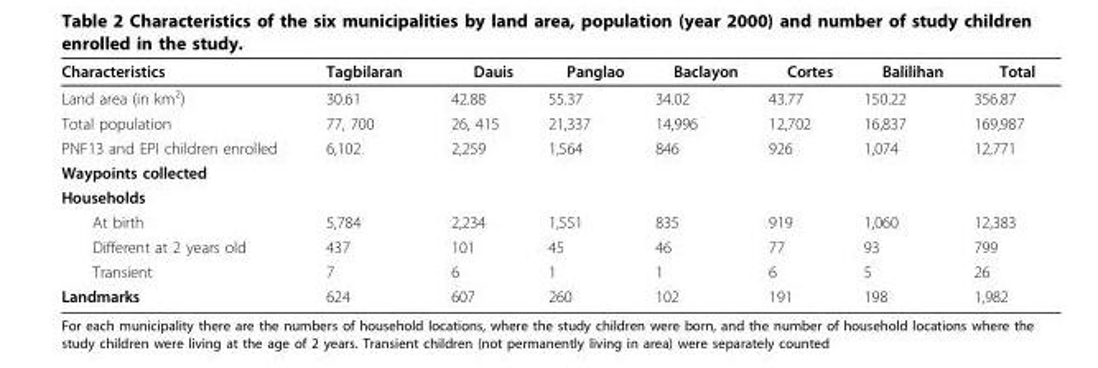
<table><thead><tr><td>Characteristics</td><td>Tagbilaran</td><td>Dauis</td><td>Panglao</td><td>Baclayon</td><td>Cortes</td><td>Balilihan</td><td>Total</td></tr></thead><tbody><tr><td>Land area (in km<sup>2</sup>)</td><td>30.61</td><td>42.88</td><td>55.37</td><td>34.02</td><td>43.77</td><td>150.22</td><td>356.87</td></tr><tr><td>Total population</td><td>77, 700</td><td>26, 415</td><td>21,337</td><td>14,996</td><td>12,702</td><td>16,837</td><td>169,987</td></tr><tr><td>PNF13 and EPI children enrolled</td><td>6,102</td><td>2,259</td><td>1,564</td><td>846</td><td>926</td><td>1,074</td><td>12,771</td></tr><tr><td colspan="8">Waypoints collected</td></tr><tr><td colspan="8">Households</td></tr><tr><td>At birth</td><td>5,784</td><td>2,234</td><td>1,551</td><td>835</td><td>919</td><td>1,060</td><td>12,383</td></tr><tr><td>Different at 2 years old</td><td>437</td><td>101</td><td>45</td><td>46</td><td>77</td><td>93</td><td>799</td></tr><tr><td>Transient</td><td>7</td><td>6</td><td>1</td><td>1</td><td>6</td><td>5</td><td>26</td></tr><tr><td>Landmarks</td><td>624</td><td>607</td><td>260</td><td>102</td><td>191</td><td>198</td><td>1,982</td></tr></tbody></table>